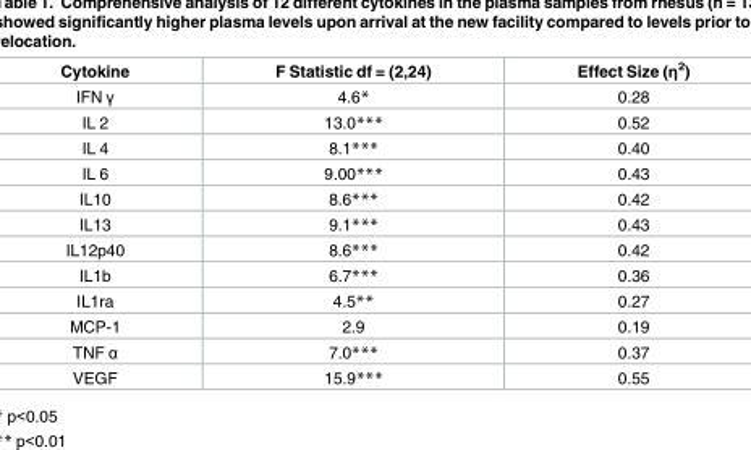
<table><thead><tr><td>Cytokine</td><td>F Statistic df = (2,24)</td><td>Effect Size (η<sup>2</sup>)</td></tr></thead><tbody><tr><td>IFN γ</td><td>4.6*</td><td>0.28</td></tr><tr><td>IL 2</td><td>13.0***</td><td>0.52</td></tr><tr><td>IL 4</td><td>8.1***</td><td>0.40</td></tr><tr><td>IL 6</td><td>9.00***</td><td>0.43</td></tr><tr><td>IL10</td><td>8.6***</td><td>0.42</td></tr><tr><td>IL13</td><td>9.1***</td><td>0.43</td></tr><tr><td>IL12p40</td><td>8.6***</td><td>0.42</td></tr><tr><td>IL1b</td><td>6.7***</td><td>0.36</td></tr><tr><td>IL1ra</td><td>4.5**</td><td>0.27</td></tr><tr><td>MCP-1</td><td>2.9</td><td>0.19</td></tr><tr><td>TNF α</td><td>7.0***</td><td>0.37</td></tr><tr><td>VEGF</td><td>15.9***</td><td>0.55</td></tr></tbody></table>